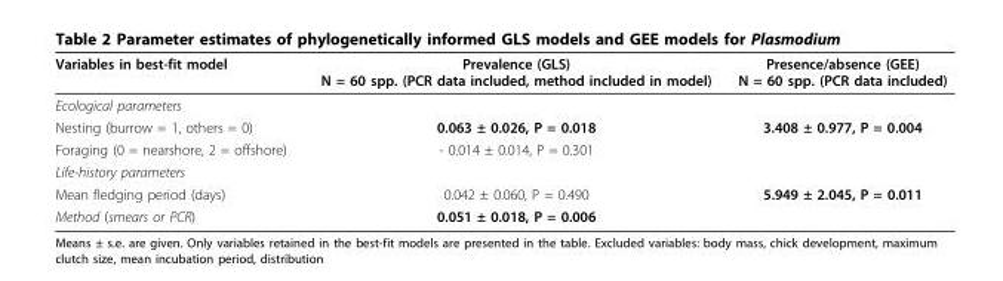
<table><thead><tr><td>Variables in best-fit model</td><td>Prevalence (GLS) N = 60 spp. (PCR data included, method included in model)</td><td>Presence/absence (GEE) N = 60 spp. (PCR data included)</td></tr></thead><tbody><tr><td colspan="3">Ecological parameters</td></tr><tr><td>Nesting (burrow = 1, others = 0)</td><td>0.063 ± 0.026, P = 0.018</td><td>3.408 ± 0.977, P = 0.004</td></tr><tr><td>Foraging (0 = nearshore, 2 = offshore)</td><td>- 0.014 ± 0.014, P = 0.301</td><td></td></tr><tr><td colspan="3">Life-history parameters</td></tr><tr><td>Mean fledging period (days)</td><td>0.042 ± 0.060, P = 0.490</td><td>5.949 ± 2.045, P = 0.011</td></tr><tr><td>Method (smears or PCR)</td><td>0.051 ± 0.018, P = 0.006</td><td></td></tr></tbody></table>